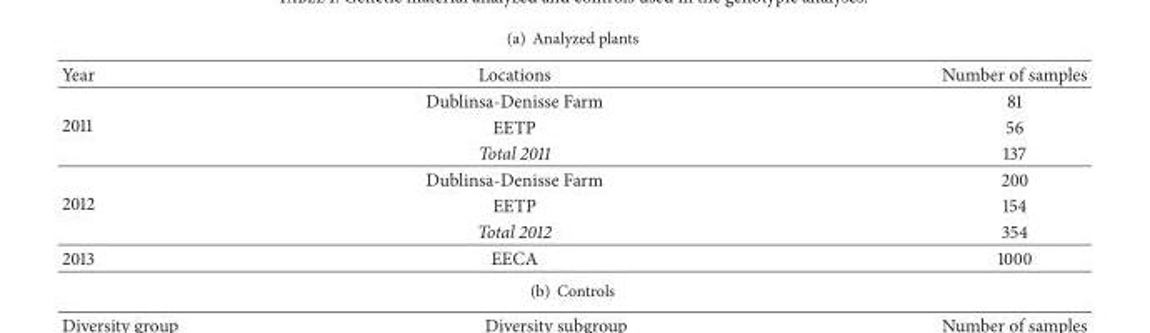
<table><thead><tr><td>Year</td><td>Locations</td><td>Number of samples</td></tr></thead><tbody><tr><td rowspan="3">2011</td><td>Dublinsa-Denisse Farm</td><td>81</td></tr><tr><td>EETP</td><td>56</td></tr><tr><td>Total 2011</td><td>137</td></tr><tr><td rowspan="3">2012</td><td>Dublinsa-Denisse Farm</td><td>200</td></tr><tr><td>EETP</td><td>154</td></tr><tr><td>Total 2012</td><td>354</td></tr><tr><td>2013</td><td>EECA</td><td>1000</td></tr></tbody></table>